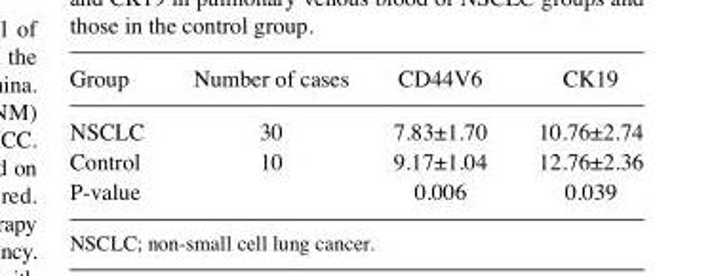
<table><thead><tr><td>Group</td><td>Number of cases</td><td>CD44V6</td><td>CK19</td></tr></thead><tbody><tr><td>NSCLC</td><td>30</td><td>7.83±1.70</td><td>10.76±2.74</td></tr><tr><td>Control</td><td>10</td><td>9.17±1.04</td><td>12.76±2.36</td></tr><tr><td>P-value</td><td></td><td>0.006</td><td>0.039</td></tr></tbody></table>